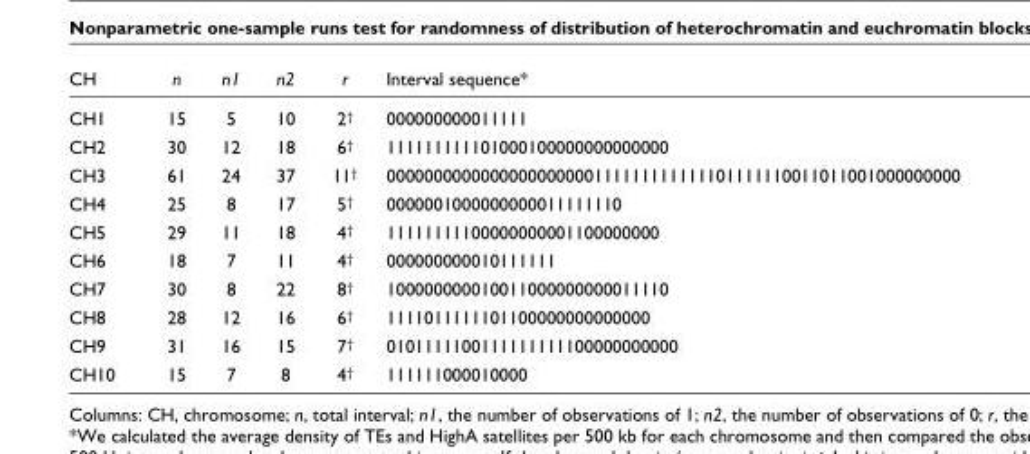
<table><thead><tr><td>CH</td><td>n</td><td>n1</td><td>n2</td><td>r</td><td>Interval sequence*</td></tr></thead><tbody><tr><td>CH1</td><td>15</td><td>5</td><td>10</td><td>2<sup>†</sup></td><td>000000000011111</td></tr><tr><td>CH2</td><td>30</td><td>12</td><td>18</td><td>6<sup>†</sup></td><td>111111111101000100000000000000</td></tr><tr><td>CH3</td><td>61</td><td>24</td><td>37</td><td>11<sup>†</sup></td><td>0000000000000000000000111111111111101111110011011001000000000</td></tr><tr><td>CH4</td><td>25</td><td>8</td><td>17</td><td>5<sup>†</sup></td><td>0000001000000000011111110</td></tr><tr><td>CH5</td><td>29</td><td>11</td><td>18</td><td>4<sup>†</sup></td><td>11111111100000000001100000000</td></tr><tr><td>CH6</td><td>18</td><td>7</td><td>11</td><td>4<sup>†</sup></td><td>000000000010111111</td></tr><tr><td>CH7</td><td>30</td><td>8</td><td>22</td><td>8<sup>†</sup></td><td>100000000010011000000000011110</td></tr><tr><td>CH8</td><td>28</td><td>12</td><td>16</td><td>6<sup>†</sup></td><td>1111011111101100000000000000</td></tr><tr><td>CH9</td><td>31</td><td>16</td><td>15</td><td>7<sup>†</sup></td><td>0101111100111111111100000000000</td></tr><tr><td>CH10</td><td>15</td><td>7</td><td>8</td><td>4<sup>†</sup></td><td>111111000010000</td></tr></tbody></table>